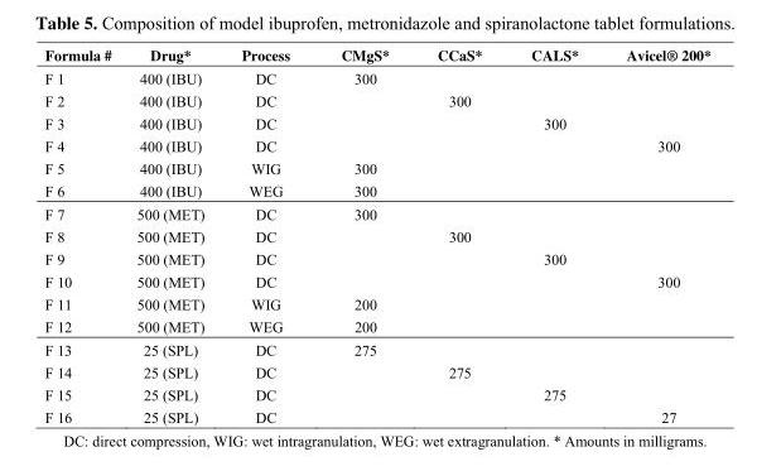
<table><thead><tr><td>Formula #</td><td>Drug*</td><td>Process</td><td>CMgS*</td><td>CCaS*</td><td>CALS*</td><td>Avicel® 200*</td></tr></thead><tbody><tr><td>F 1</td><td>400 (IBU)</td><td>DC</td><td>300</td><td></td><td></td><td></td></tr><tr><td>F 2</td><td>400 (IBU)</td><td>DC</td><td></td><td>300</td><td></td><td></td></tr><tr><td>F 3</td><td>400 (IBU)</td><td>DC</td><td></td><td></td><td>300</td><td></td></tr><tr><td>F 4</td><td>400 (IBU)</td><td>DC</td><td></td><td></td><td></td><td>300</td></tr><tr><td>F 5</td><td>400 (IBU)</td><td>WIG</td><td>300</td><td></td><td></td><td></td></tr><tr><td>F 6</td><td>400 (IBU)</td><td>WEG</td><td>300</td><td></td><td></td><td></td></tr><tr><td>F 7</td><td>500 (MET)</td><td>DC</td><td>300</td><td></td><td></td><td></td></tr><tr><td>F 8</td><td>500 (MET)</td><td>DC</td><td></td><td>300</td><td></td><td></td></tr><tr><td>F 9</td><td>500 (MET)</td><td>DC</td><td></td><td></td><td>300</td><td></td></tr><tr><td>F 10</td><td>500 (MET)</td><td>DC</td><td></td><td></td><td></td><td>300</td></tr><tr><td>F 11</td><td>500 (MET)</td><td>WIG</td><td>200</td><td></td><td></td><td></td></tr><tr><td>F 12</td><td>500 (MET)</td><td>WEG</td><td>200</td><td></td><td></td><td></td></tr><tr><td>F 13</td><td>25 (SPL)</td><td>DC</td><td>275</td><td></td><td></td><td></td></tr><tr><td>F 14</td><td>25 (SPL)</td><td>DC</td><td></td><td>275</td><td></td><td></td></tr><tr><td>F 15</td><td>25 (SPL)</td><td>DC</td><td></td><td></td><td>275</td><td></td></tr><tr><td>F 16</td><td>25 (SPL)</td><td>DC</td><td></td><td></td><td></td><td>27</td></tr></tbody></table>